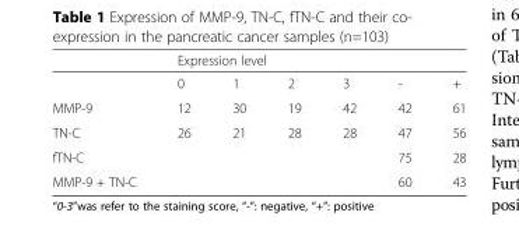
<table><thead><tr><td rowspan="2"></td><td colspan="4">Expression level</td><td rowspan="2">-</td><td rowspan="2">+</td></tr><tr><td>0</td><td>1</td><td>2</td><td>3</td></tr></thead><tbody><tr><td>MMP-9</td><td>12</td><td>30</td><td>19</td><td>42</td><td>42</td><td>61</td></tr><tr><td>TN-C</td><td>26</td><td>21</td><td>28</td><td>28</td><td>47</td><td>56</td></tr><tr><td>fTN-C</td><td></td><td></td><td></td><td></td><td>75</td><td>28</td></tr><tr><td>MMP-9 + TN-C</td><td></td><td></td><td></td><td></td><td>60</td><td>43</td></tr></tbody></table>